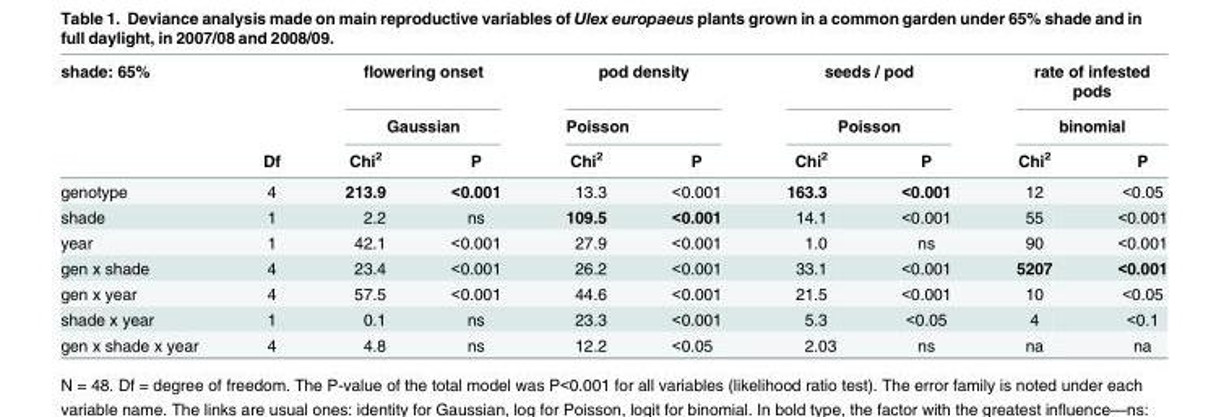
<table><thead><tr><td rowspan="3">shade: 65%</td><td rowspan="3">Df</td><td rowspan="2" colspan="2">flowering onset Gaussian</td><td rowspan="2" colspan="2">pod density Poisson</td><td rowspan="2" colspan="2">seeds / pod Poisson</td><td rowspan="2" colspan="2">rate of infested pods binomial</td></tr><tr></tr><tr><td>Chi<sup>2</sup></td><td>P</td><td>Chi<sup>2</sup></td><td>P</td><td>Chi<sup>2</sup></td><td>P</td><td>Chi<sup>2</sup></td><td>P</td></tr></thead><tbody><tr><td>genotype</td><td>4</td><td>213.9</td><td>&lt;0.001</td><td>13.3</td><td>&lt;0.001</td><td>163.3</td><td>&lt;0.001</td><td>12</td><td>&lt;0.05</td></tr><tr><td>shade</td><td>1</td><td>2.2</td><td>ns</td><td>109.5</td><td>&lt;0.001</td><td>14.1</td><td>&lt;0.001</td><td>55</td><td>&lt;0.001</td></tr><tr><td>year</td><td>1</td><td>42.1</td><td>&lt;0.001</td><td>27.9</td><td>&lt;0.001</td><td>1.0</td><td>ns</td><td>90</td><td>&lt;0.001</td></tr><tr><td>gen x shade</td><td>4</td><td>23.4</td><td>&lt;0.001</td><td>26.2</td><td>&lt;0.001</td><td>33.1</td><td>&lt;0.001</td><td>5207</td><td>&lt;0.001</td></tr><tr><td>gen x year</td><td>4</td><td>57.5</td><td>&lt;0.001</td><td>44.6</td><td>&lt;0.001</td><td>21.5</td><td>&lt;0.001</td><td>10</td><td>&lt;0.05</td></tr><tr><td>shade x year</td><td>1</td><td>0.1</td><td>ns</td><td>23.3</td><td>&lt;0.001</td><td>5.3</td><td>&lt;0.05</td><td>4</td><td>&lt;0.1</td></tr><tr><td>gen x shade x year</td><td>4</td><td>4.8</td><td>ns</td><td>12.2</td><td>&lt;0.05</td><td>2.03</td><td>ns</td><td>na</td><td>na</td></tr></tbody></table>